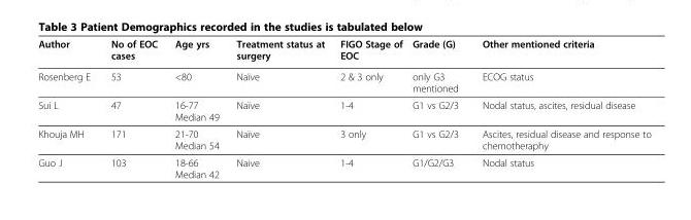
<table><thead><tr><td>Author</td><td>No of EOC cases</td><td>Age yrs</td><td>Treatment status at surgery</td><td>FIGO Stage of EOC</td><td>Grade (G)</td><td>Other mentioned criteria</td></tr></thead><tbody><tr><td>Rosenberg E</td><td>53</td><td>&lt;80</td><td>Naïve</td><td>2 &amp; 3 only</td><td>only G3 mentioned</td><td>ECOG status</td></tr><tr><td>Sui L</td><td>47</td><td>16-77 Median 49</td><td>Naïve</td><td>1-4</td><td>G1 vs G2/3</td><td>Nodal status, ascites, residual disease</td></tr><tr><td>Khouja MH</td><td>171</td><td>21-70 Median 54</td><td>Naïve</td><td>3 only</td><td>G1 vs G2/3</td><td>Ascites, residual disease and response to chemotheraphy</td></tr><tr><td>Guo J</td><td>103</td><td>18-66 Median 42</td><td>Naive</td><td>1-4</td><td>G1/G2/G3</td><td>Nodal status</td></tr></tbody></table>